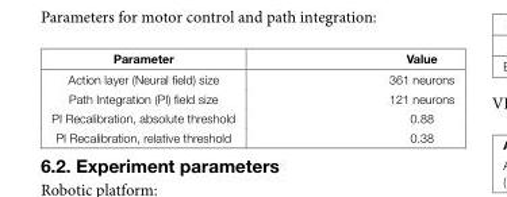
<table><thead><tr><td>Parameter</td><td>Value</td></tr></thead><tbody><tr><td>Action layer (Neural field) size</td><td>361 neurons</td></tr><tr><td>Path Integration (PI) field size</td><td>121 neurons</td></tr><tr><td>PI Recalibration, absolute threshold</td><td>0.88</td></tr><tr><td>PI Recalibration, relative threshold</td><td>0.38</td></tr></tbody></table>